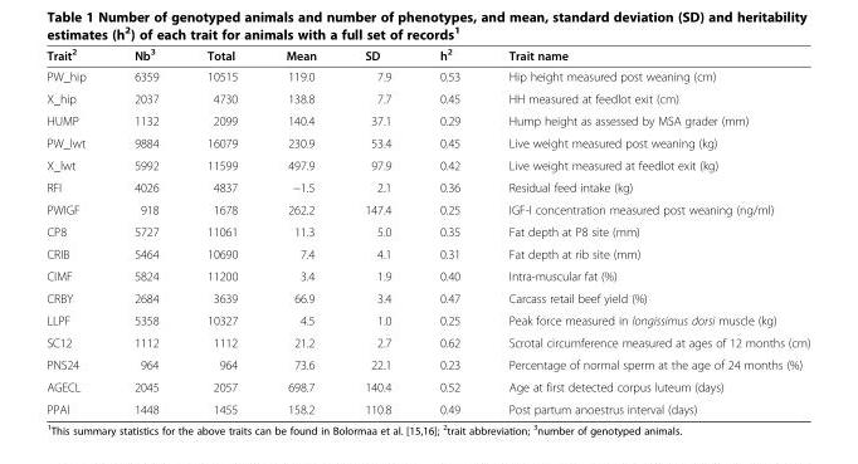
<table><thead><tr><td>Trait<sup>2</sup></td><td>Nb<sup>3</sup></td><td>Total</td><td>Mean</td><td>SD</td><td>h<sup>2</sup></td><td>Trait name</td></tr></thead><tbody><tr><td>PW_hip</td><td>6359</td><td>10515</td><td>119.0</td><td>7.9</td><td>0.53</td><td>Hip height measured post weaning (cm)</td></tr><tr><td>X_hip</td><td>2037</td><td>4730</td><td>138.8</td><td>7.7</td><td>0.45</td><td>HH measured at feedlot exit (cm)</td></tr><tr><td>HUMP</td><td>1132</td><td>2099</td><td>140.4</td><td>37.1</td><td>0.29</td><td>Hump height as assessed by MSA grader (mm)</td></tr><tr><td>PW_lwt</td><td>9884</td><td>16079</td><td>230.9</td><td>53.4</td><td>0.45</td><td>Live weight measured post weaning (kg)</td></tr><tr><td>X_lwt</td><td>5992</td><td>11599</td><td>497.9</td><td>97.9</td><td>0.42</td><td>Live weight measured at feedlot exit (kg)</td></tr><tr><td>RFI</td><td>4026</td><td>4837</td><td>−1.5</td><td>2.1</td><td>0.36</td><td>Residual feed intake (kg)</td></tr><tr><td>PWIGF</td><td>918</td><td>1678</td><td>262.2</td><td>147.4</td><td>0.25</td><td>IGF-I concentration measured post weaning (ng/ml)</td></tr><tr><td>CP8</td><td>5727</td><td>11061</td><td>11.3</td><td>5.0</td><td>0.35</td><td>Fat depth at P8 site (mm)</td></tr><tr><td>CRIB</td><td>5464</td><td>10690</td><td>7.4</td><td>4.1</td><td>0.31</td><td>Fat depth at rib site (mm)</td></tr><tr><td>CIMF</td><td>5824</td><td>11200</td><td>3.4</td><td>1.9</td><td>0.40</td><td>Intra-muscular fat (%)</td></tr><tr><td>CRBY</td><td>2684</td><td>3639</td><td>66.9</td><td>3.4</td><td>0.47</td><td>Carcass retail beef yield (%)</td></tr><tr><td>LLPF</td><td>5358</td><td>10327</td><td>4.5</td><td>1.0</td><td>0.25</td><td>Peak force measured in longissimus dorsi muscle (kg)</td></tr><tr><td>SC12</td><td>1112</td><td>1112</td><td>21.2</td><td>2.7</td><td>0.62</td><td>Scrotal circumference measured at ages of 12 months (cm)</td></tr><tr><td>PNS24</td><td>964</td><td>964</td><td>73.6</td><td>22.1</td><td>0.23</td><td>Percentage of normal sperm at the age of 24 months (%)</td></tr><tr><td>AGECL</td><td>2045</td><td>2057</td><td>698.7</td><td>140.4</td><td>0.52</td><td>Age at first detected corpus luteum (days)</td></tr><tr><td>PPAI</td><td>1448</td><td>1455</td><td>158.2</td><td>110.8</td><td>0.49</td><td>Post partum anoestrus interval (days)</td></tr></tbody></table>